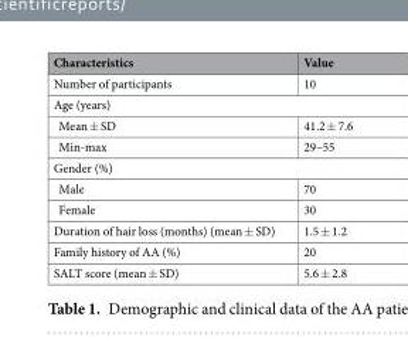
<table><thead><tr><td>Characteristics</td><td>Value</td></tr></thead><tbody><tr><td>Number of participants</td><td>10</td></tr><tr><td colspan="2">Age (years)</td></tr><tr><td>Mean ± SD</td><td>41.2 ± 7.6</td></tr><tr><td>Min-max</td><td>29–55</td></tr><tr><td colspan="2">Gender (%)</td></tr><tr><td>Male</td><td>70</td></tr><tr><td>Female</td><td>30</td></tr><tr><td>Duration of hair loss (months) (mean ± SD)</td><td>1.5 ± 1.2</td></tr><tr><td>Family history of AA (%)</td><td>20</td></tr><tr><td>SALT score (mean ± SD)</td><td>5.6 ± 2.8</td></tr></tbody></table>